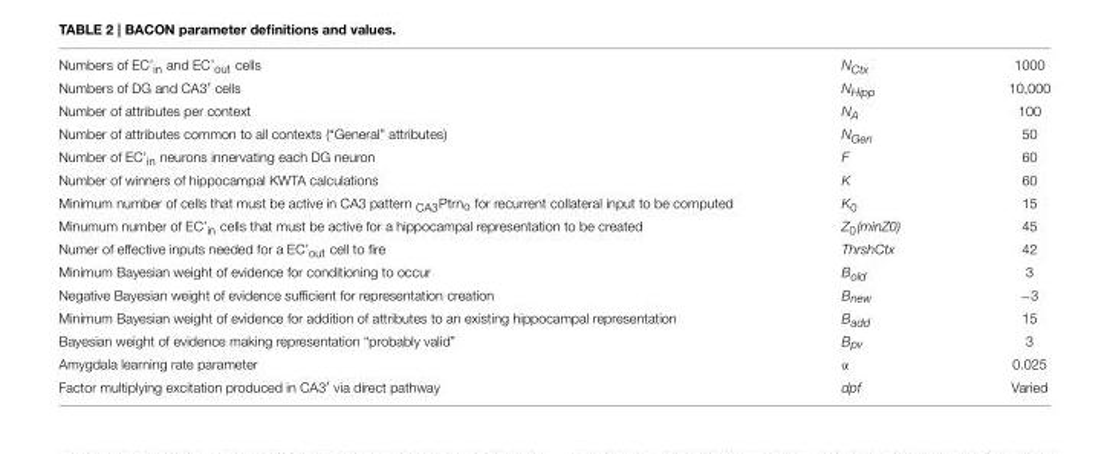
<table><tbody><tr><td>Numbers of EC’<sub>in</sub> and EC’<sub>out</sub> cells</td><td>N<sub>Ctx</sub></td><td>1000</td></tr><tr><td>Numbers of DG and CA3′ cells</td><td>N<sub>Hipp</sub></td><td>10,000</td></tr><tr><td>Number of attributes per context</td><td>N<sub>A</sub></td><td>100</td></tr><tr><td>Number of attributes common to all contexts (“General” attributes)</td><td>N<sub>Gen</sub></td><td>50</td></tr><tr><td>Number of EC’<sub>in</sub> neurons innervating each DG neuron</td><td>F</td><td>60</td></tr><tr><td>Number of winners of hippocampal KWTA calculations</td><td>K</td><td>60</td></tr><tr><td>Minimum number of cells that must be active in CA3 pattern <sub>CA3</sub>Ptrn<sub>o</sub> for recurrent collateral input to be computed</td><td>K<sub>0</sub></td><td>15</td></tr><tr><td>Minumum number of EC’<sub>in</sub> cells that must be active for a hippocampal representation to be created</td><td>Z<sub>0</sub>(minZ0)</td><td>45</td></tr><tr><td>Numer of effective inputs needed for a EC’<sub>out</sub> cell to fire</td><td>ThrshCtx</td><td>42</td></tr><tr><td>Minimum Bayesian weight of evidence for conditioning to occur</td><td>B<sub>old</sub></td><td>3</td></tr><tr><td>Negative Bayesian weight of evidence sufficient for representation creation</td><td>B<sub>new</sub></td><td>−3</td></tr><tr><td>Minimum Bayesian weight of evidence for addition of attributes to an existing hippocampal representation</td><td>B<sub>add</sub></td><td>15</td></tr><tr><td>Bayesian weight of evidence making representation “probably valid”</td><td>B<sub>pv</sub></td><td>3</td></tr><tr><td>Amygdala learning rate parameter</td><td>α</td><td>0.025</td></tr><tr><td>Factor multiplying excitation produced in CA3′ via direct pathway</td><td>dpf</td><td>Varied</td></tr></tbody></table>